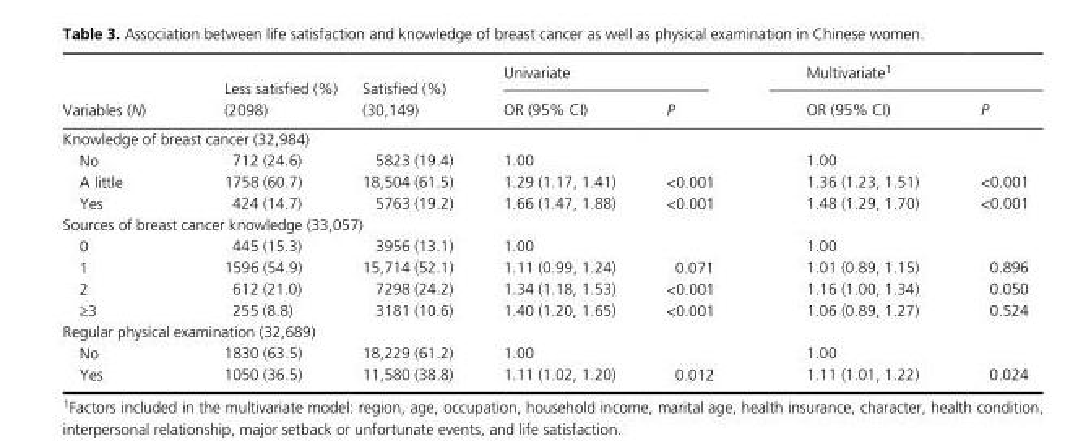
<table><thead><tr><td rowspan="2">Variables (N)</td><td rowspan="2">Less satisfied (%) (2098)</td><td rowspan="2">Satisfied (%) (30,149)</td><td colspan="2">Univariate</td><td colspan="2">Multivariate1</td></tr><tr><td>OR (95% CI)</td><td>P</td><td>OR (95% CI)</td><td>P</td></tr></thead><tbody><tr><td colspan="7">Knowledge of breast cancer (32,984)</td></tr><tr><td>No</td><td>712 (24.6)</td><td>5823 (19.4)</td><td>1.00</td><td></td><td>1.00</td><td></td></tr><tr><td>A little</td><td>1758 (60.7)</td><td>18,504 (61.5)</td><td>1.29 (1.17, 1.41)</td><td>&lt;0.001</td><td>1.36 (1.23, 1.51)</td><td>&lt;0.001</td></tr><tr><td>Yes</td><td>424 (14.7)</td><td>5763 (19.2)</td><td>1.66 (1.47, 1.88)</td><td>&lt;0.001</td><td>1.48 (1.29, 1.70)</td><td>&lt;0.001</td></tr><tr><td colspan="7">Sources of breast cancer knowledge (33,057)</td></tr><tr><td>0</td><td>445 (15.3)</td><td>3956 (13.1)</td><td>1.00</td><td></td><td>1.00</td><td></td></tr><tr><td>1</td><td>1596 (54.9)</td><td>15,714 (52.1)</td><td>1.11 (0.99, 1.24)</td><td>0.071</td><td>1.01 (0.89, 1.15)</td><td>0.896</td></tr><tr><td>2</td><td>612 (21.0)</td><td>7298 (24.2)</td><td>1.34 (1.18, 1.53)</td><td>&lt;0.001</td><td>1.16 (1.00, 1.34)</td><td>0.050</td></tr><tr><td>≥3</td><td>255 (8.8)</td><td>3181 (10.6)</td><td>1.40 (1.20, 1.65)</td><td>&lt;0.001</td><td>1.06 (0.89, 1.27)</td><td>0.524</td></tr><tr><td colspan="7">Regular physical examination (32,689)</td></tr><tr><td>No</td><td>1830 (63.5)</td><td>18,229 (61.2)</td><td>1.00</td><td></td><td>1.00</td><td></td></tr><tr><td>Yes</td><td>1050 (36.5)</td><td>11,580 (38.8)</td><td>1.11 (1.02, 1.20)</td><td>0.012</td><td>1.11 (1.01, 1.22)</td><td>0.024</td></tr></tbody></table>